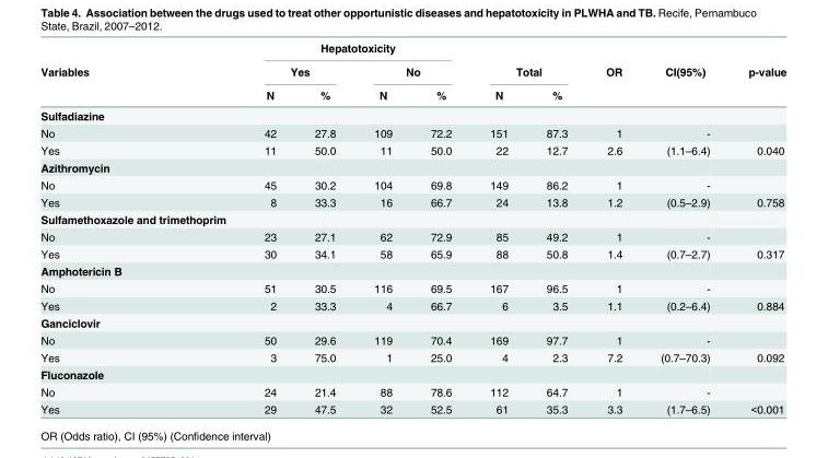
<table><thead><tr><td rowspan="3">Variables</td><td colspan="4">Hepatotoxicity</td><td></td><td></td><td rowspan="3">OR</td><td rowspan="3">CI(95%)</td><td rowspan="3">p-value</td></tr><tr><td colspan="2">Yes</td><td colspan="2">No</td><td colspan="2">Total</td></tr><tr><td>N</td><td>%</td><td>N</td><td>%</td><td>N</td><td>%</td></tr></thead><tbody><tr><td colspan="10">Sulfadiazine</td></tr><tr><td>No</td><td>42</td><td>27.8</td><td>109</td><td>72.2</td><td>151</td><td>87.3</td><td>1</td><td>-</td><td></td></tr><tr><td>Yes</td><td>11</td><td>50.0</td><td>11</td><td>50.0</td><td>22</td><td>12.7</td><td>2.6</td><td>(1.1–6.4)</td><td>0.040</td></tr><tr><td colspan="10">Azithromycin</td></tr><tr><td>No</td><td>45</td><td>30.2</td><td>104</td><td>69.8</td><td>149</td><td>86.2</td><td>1</td><td>-</td><td></td></tr><tr><td>Yes</td><td>8</td><td>33.3</td><td>16</td><td>66.7</td><td>24</td><td>13.8</td><td>1.2</td><td>(0.5–2.9)</td><td>0.758</td></tr><tr><td colspan="10">Sulfamethoxazole and trimethoprim</td></tr><tr><td>No</td><td>23</td><td>27.1</td><td>62</td><td>72.9</td><td>85</td><td>49.2</td><td>1</td><td>-</td><td></td></tr><tr><td>Yes</td><td>30</td><td>34.1</td><td>58</td><td>65.9</td><td>88</td><td>50.8</td><td>1.4</td><td>(0.7–2.7)</td><td>0.317</td></tr><tr><td colspan="10">Amphotericin B</td></tr><tr><td>No</td><td>51</td><td>30.5</td><td>116</td><td>69.5</td><td>167</td><td>96.5</td><td>1</td><td>-</td><td></td></tr><tr><td>Yes</td><td>2</td><td>33.3</td><td>4</td><td>66.7</td><td>6</td><td>3.5</td><td>1.1</td><td>(0.2–6.4)</td><td>0.884</td></tr><tr><td colspan="10">Ganciclovir</td></tr><tr><td>No</td><td>50</td><td>29.6</td><td>119</td><td>70.4</td><td>169</td><td>97.7</td><td>1</td><td>-</td><td></td></tr><tr><td>Yes</td><td>3</td><td>75.0</td><td>1</td><td>25.0</td><td>4</td><td>2.3</td><td>7.2</td><td>(0.7–70.3)</td><td>0.092</td></tr><tr><td colspan="10">Fluconazole</td></tr><tr><td>No</td><td>24</td><td>21.4</td><td>88</td><td>78.6</td><td>112</td><td>64.7</td><td>1</td><td>-</td><td></td></tr><tr><td>Yes</td><td>29</td><td>47.5</td><td>32</td><td>52.5</td><td>61</td><td>35.3</td><td>3.3</td><td>(1.7–6.5)</td><td>&lt;0.001</td></tr></tbody></table>